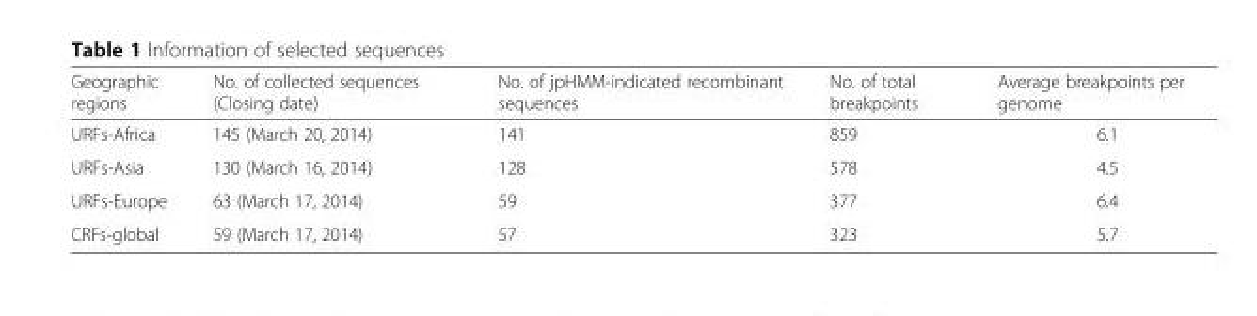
<table><thead><tr><td>Geographic regions</td><td>No. of collected sequences (Closing date)</td><td>No. of jpHMM-indicated recombinant sequences</td><td>No. of total breakpoints</td><td>Average breakpoints per genome</td></tr></thead><tbody><tr><td>URFs-Africa</td><td>145 (March 20, 2014)</td><td>141</td><td>859</td><td>6.1</td></tr><tr><td>URFs-Asia</td><td>130 (March 16, 2014)</td><td>128</td><td>578</td><td>4.5</td></tr><tr><td>URFs-Europe</td><td>63 (March 17, 2014)</td><td>59</td><td>377</td><td>6.4</td></tr><tr><td>CRFs-global</td><td>59 (March 17, 2014)</td><td>57</td><td>323</td><td>5.7</td></tr></tbody></table>